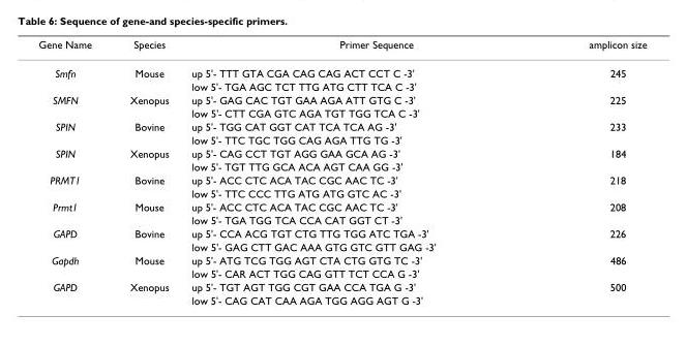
<table><thead><tr><td>Gene Name</td><td>Species</td><td>Primer Sequence</td><td>amplicon size</td></tr></thead><tbody><tr><td rowspan="2">Smfn</td><td>Mouse</td><td>up 5&#x27;- TTT GTA CGA CAG CAG ACT CCT C -3&#x27;</td><td>245</td></tr><tr><td></td><td>low 5&#x27;- TGA AGC TCT TTG ATG CTT TCA C -3&#x27;</td><td></td></tr><tr><td rowspan="2">SMFN</td><td>Xenopus</td><td>up 5&#x27;- GAG CAC TGT GAA AGA ATT GTG C -3&#x27;</td><td>225</td></tr><tr><td></td><td>low 5&#x27;- CTT CGA GTC AGA TGT TGG TCA C -3&#x27;</td><td></td></tr><tr><td rowspan="2">SPIN</td><td>Bovine</td><td>up 5&#x27;- TGG CAT GGT CAT TCA TCA AG -3&#x27;</td><td>233</td></tr><tr><td></td><td>low 5&#x27;- TTC TGC TGG CAG AGA TTG TG -3&#x27;</td><td></td></tr><tr><td rowspan="2">SPIN</td><td>Xenopus</td><td>up 5&#x27;- CAG CCT TGT AGG GAA GCA AG -3&#x27;</td><td>184</td></tr><tr><td></td><td>low 5&#x27;- TGT TTG GCA ACA AGT CAA GG -3&#x27;</td><td></td></tr><tr><td rowspan="2">PRMT1</td><td>Bovine</td><td>up 5&#x27;- ACC CTC ACA TAC CGC AAC TC -3&#x27;</td><td>218</td></tr><tr><td></td><td>low 5&#x27;- TTC CCC TTG ATG ATG GTC AC -3&#x27;</td><td></td></tr><tr><td rowspan="2">Prmt1</td><td>Mouse</td><td>up 5&#x27;- ACC CTC ACA TAC CGC AAC TC -3&#x27;</td><td>208</td></tr><tr><td></td><td>low 5&#x27;- TGA TGG TCA CCA CAT GGT CT -3&#x27;</td><td></td></tr><tr><td rowspan="2">GAPD</td><td>Bovine</td><td>up 5&#x27;- CCA ACG TGT CTG TTG TGG ATC TGA -3&#x27;</td><td>226</td></tr><tr><td></td><td>low 5&#x27;- GAG CTT GAC AAA GTG GTC GTT GAG -3&#x27;</td><td></td></tr><tr><td rowspan="2">Gapdh</td><td>Mouse</td><td>up 5&#x27;- ATG TCG TGG AGT CTA CTG GTG TC -3&#x27;</td><td>486</td></tr><tr><td></td><td>low 5&#x27;- CAR ACT TGG CAG GTT TCT CCA G -3&#x27;</td><td></td></tr><tr><td rowspan="2">GAPD</td><td>Xenopus</td><td>up 5&#x27;- TGT AGT TGG CGT GAA CCA TGA G -3&#x27;</td><td>500</td></tr><tr><td></td><td>low 5&#x27;- CAG CAT CAA AGA TGG AGG AGT G -3&#x27;</td><td></td></tr></tbody></table>